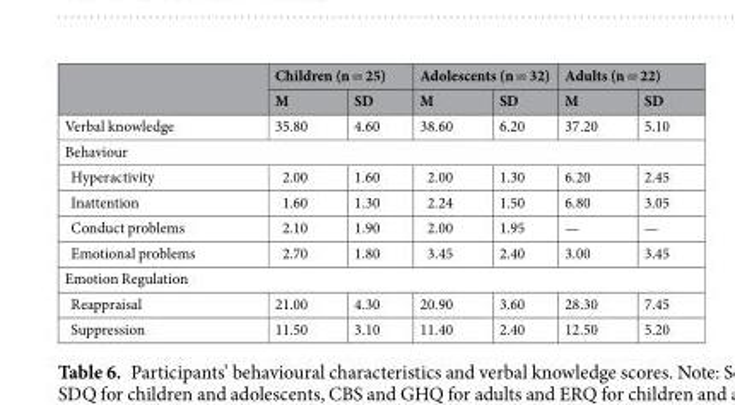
<table><thead><tr><td rowspan="2"></td><td colspan="2">Children (n = 25)</td><td colspan="2">Adolescents (n = 32)</td><td colspan="2">Adults (n = 22)</td></tr><tr><td>M</td><td>SD</td><td>M</td><td>SD</td><td>M</td><td>SD</td></tr></thead><tbody><tr><td>Verbal knowledge</td><td>35.80</td><td>4.60</td><td>38.60</td><td>6.20</td><td>37.20</td><td>5.10</td></tr><tr><td colspan="7">Behaviour</td></tr><tr><td>Hyperactivity</td><td>2.00</td><td>1.60</td><td>2.00</td><td>1.30</td><td>6.20</td><td>2.45</td></tr><tr><td>Inattention</td><td>1.60</td><td>1.30</td><td>2.24</td><td>1.50</td><td>6.80</td><td>3.05</td></tr><tr><td>Conduct problems</td><td>2.10</td><td>1.90</td><td>2.00</td><td>1.95</td><td>—</td><td>—</td></tr><tr><td>Emotional problems</td><td>2.70</td><td>1.80</td><td>3.45</td><td>2.40</td><td>3.00</td><td>3.45</td></tr><tr><td colspan="7">Emotion Regulation</td></tr><tr><td>Reappraisal</td><td>21.00</td><td>4.30</td><td>20.90</td><td>3.60</td><td>28.30</td><td>7.45</td></tr><tr><td>Suppression</td><td>11.50</td><td>3.10</td><td>11.40</td><td>2.40</td><td>12.50</td><td>5.20</td></tr></tbody></table>